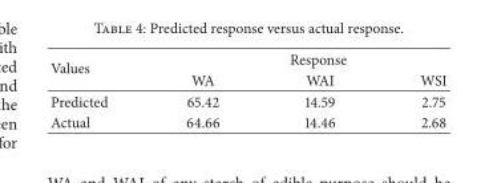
<table><thead><tr><td rowspan="2">Values</td><td colspan="3">Response</td></tr><tr><td>WA</td><td>WAI</td><td>WSI</td></tr></thead><tbody><tr><td>Predicted</td><td>65.42</td><td>14.59</td><td>2.75</td></tr><tr><td>Actual</td><td>64.66</td><td>14.46</td><td>2.68</td></tr></tbody></table>